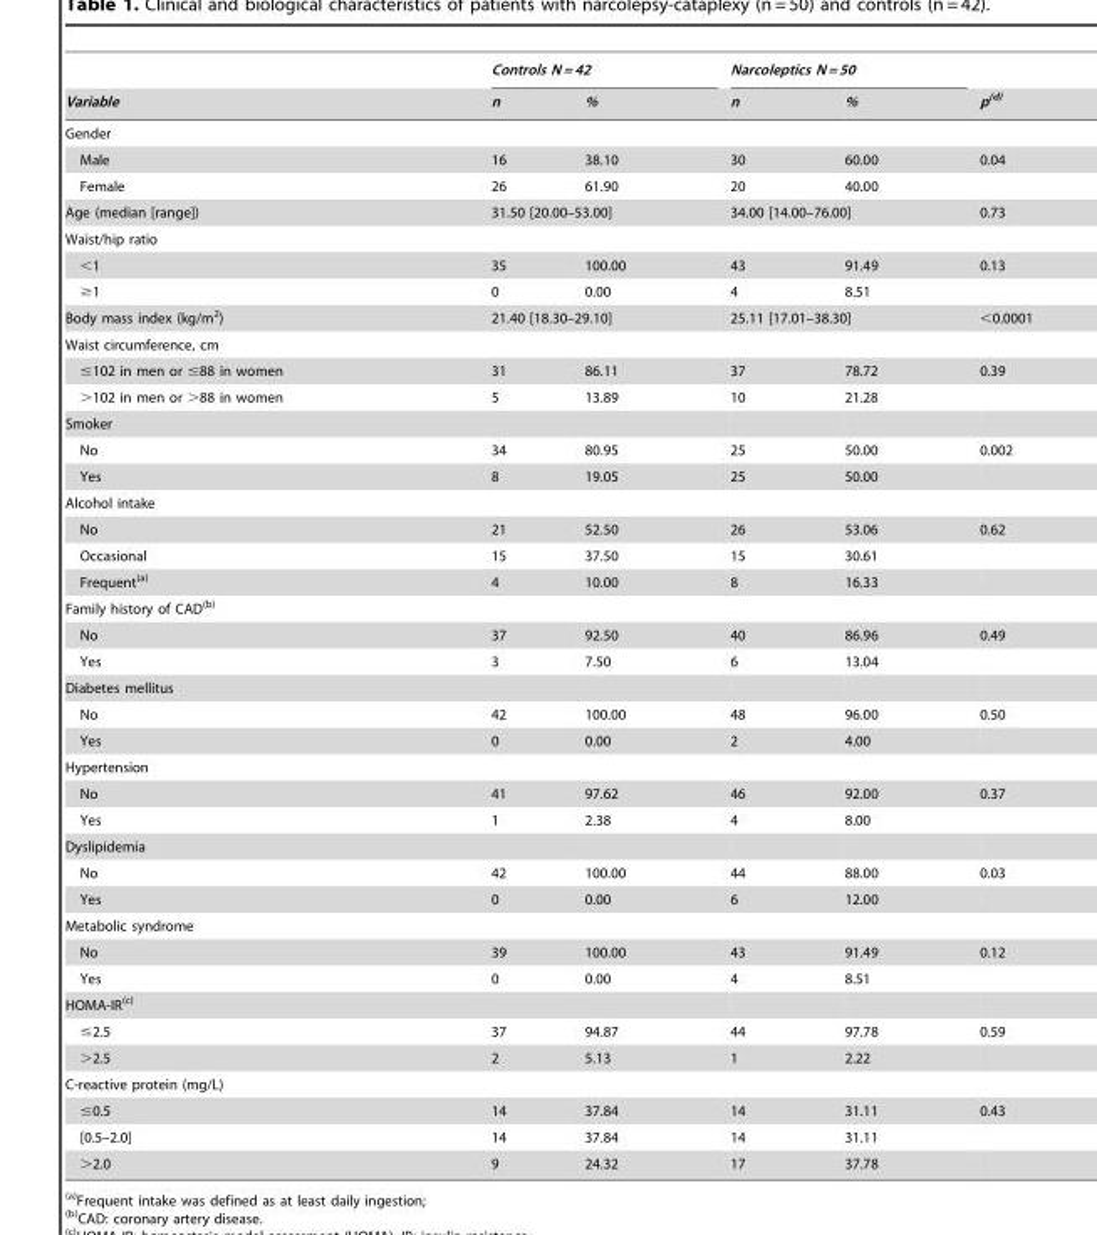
<table><thead><tr><td rowspan="2">Variable</td><td colspan="2">Controls N = 42</td><td colspan="2">Narcoleptics N = 50</td><td rowspan="2">p(d)</td></tr><tr><td>n</td><td>%</td><td>n</td><td>%</td></tr></thead><tbody><tr><td colspan="6">Gender</td></tr><tr><td>Male</td><td>16</td><td>38.10</td><td>30</td><td>60.00</td><td>0.04</td></tr><tr><td>Female</td><td>26</td><td>61.90</td><td>20</td><td>40.00</td><td></td></tr><tr><td>Age (median [range])</td><td colspan="2">31.50 [20.00–53.00]</td><td colspan="2">34.00 [14.00–76.00]</td><td>0.73</td></tr><tr><td colspan="6">Waist/hip ratio</td></tr><tr><td>&lt;1</td><td>35</td><td>100.00</td><td>43</td><td>91.49</td><td>0.13</td></tr><tr><td>≥1</td><td>0</td><td>0.00</td><td>4</td><td>8.51</td><td></td></tr><tr><td>Body mass index (kg/m<sup>2</sup>)</td><td colspan="2">21.40 [18.30–29.10]</td><td colspan="2">25.11 [17.01–38.30]</td><td>&lt;0.0001</td></tr><tr><td colspan="6">Waist circumference, cm</td></tr><tr><td>≤102 in men or ≤88 in women</td><td>31</td><td>86.11</td><td>37</td><td>78.72</td><td>0.39</td></tr><tr><td>&gt;102 in men or &gt;88 in women</td><td>5</td><td>13.89</td><td>10</td><td>21.28</td><td></td></tr><tr><td colspan="6">Smoker</td></tr><tr><td>No</td><td>34</td><td>80.95</td><td>25</td><td>50.00</td><td>0.002</td></tr><tr><td>Yes</td><td>8</td><td>19.05</td><td>25</td><td>50.00</td><td></td></tr><tr><td colspan="6">Alcohol intake</td></tr><tr><td>No</td><td>21</td><td>52.50</td><td>26</td><td>53.06</td><td>0.62</td></tr><tr><td>Occasional</td><td>15</td><td>37.50</td><td>15</td><td>30.61</td><td></td></tr><tr><td>Frequent(a)</td><td>4</td><td>10.00</td><td>8</td><td>16.33</td><td></td></tr><tr><td colspan="6">Family history of CAD(b)</td></tr><tr><td>No</td><td>37</td><td>92.50</td><td>40</td><td>86.96</td><td>0.49</td></tr><tr><td>Yes</td><td>3</td><td>7.50</td><td>6</td><td>13.04</td><td></td></tr><tr><td colspan="6">Diabetes mellitus</td></tr><tr><td>No</td><td>42</td><td>100.00</td><td>48</td><td>96.00</td><td>0.50</td></tr><tr><td>Yes</td><td>0</td><td>0.00</td><td>2</td><td>4.00</td><td></td></tr><tr><td colspan="6">Hypertension</td></tr><tr><td>No</td><td>41</td><td>97.62</td><td>46</td><td>92.00</td><td>0.37</td></tr><tr><td>Yes</td><td>1</td><td>2.38</td><td>4</td><td>8.00</td><td></td></tr><tr><td colspan="6">Dyslipidemia</td></tr><tr><td>No</td><td>42</td><td>100.00</td><td>44</td><td>88.00</td><td>0.03</td></tr><tr><td>Yes</td><td>0</td><td>0.00</td><td>6</td><td>12.00</td><td></td></tr><tr><td colspan="6">Metabolic syndrome</td></tr><tr><td>No</td><td>39</td><td>100.00</td><td>43</td><td>91.49</td><td>0.12</td></tr><tr><td>Yes</td><td>0</td><td>0.00</td><td>4</td><td>8.51</td><td></td></tr><tr><td colspan="6">HOMA-IR(c)</td></tr><tr><td>≤2.5</td><td>37</td><td>94.87</td><td>44</td><td>97.78</td><td>0.59</td></tr><tr><td>&gt;2.5</td><td>2</td><td>5.13</td><td>1</td><td>2.22</td><td></td></tr><tr><td colspan="6">C-reactive protein (mg/L)</td></tr><tr><td>≤0.5</td><td>14</td><td>37.84</td><td>14</td><td>31.11</td><td>0.43</td></tr><tr><td>[0.5–2.0]</td><td>14</td><td>37.84</td><td>14</td><td>31.11</td><td></td></tr><tr><td>&gt;2.0</td><td>9</td><td>24.32</td><td>17</td><td>37.78</td><td></td></tr></tbody></table>